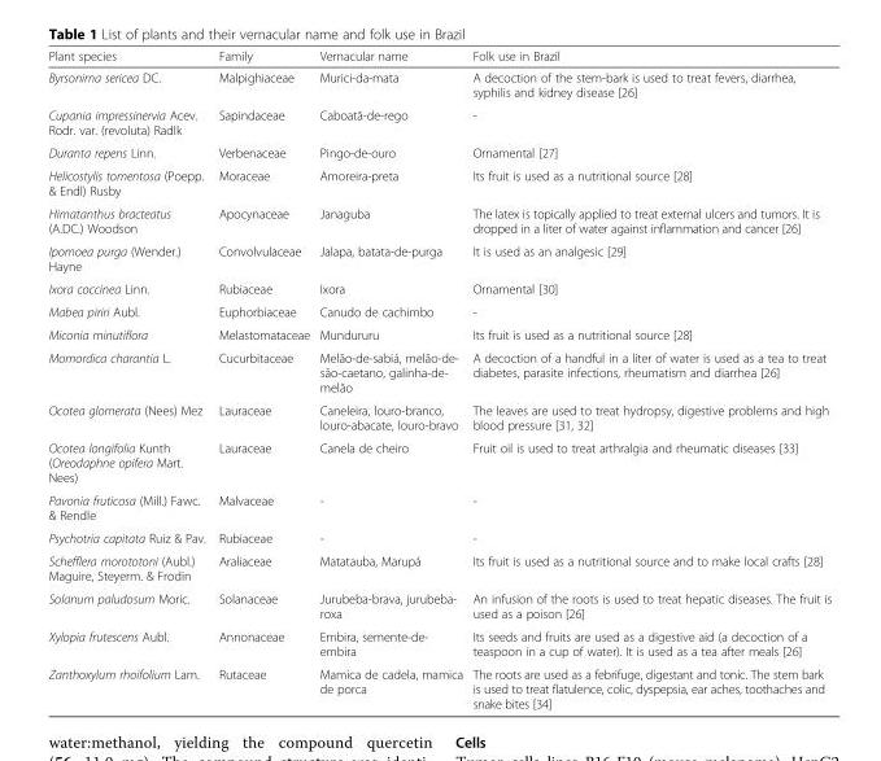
<table><thead><tr><td>Plant species</td><td>Family</td><td>Vernacular name</td><td>Folk use in Brazil</td></tr></thead><tbody><tr><td>Byrsonima sericea DC.</td><td>Malpighiaceae</td><td>Murici-da-mata</td><td>A decoction of the stem-bark is used to treat fevers, diarrhea, syphilis and kidney disease [26]</td></tr><tr><td>Cupania impressinervia Acev. Rodr. var. (revoluta) Radlk</td><td>Sapindaceae</td><td>Caboatã-de-rego</td><td>-</td></tr><tr><td>Duranta repens Linn.</td><td>Verbenaceae</td><td>Pingo-de-ouro</td><td>Ornamental [27]</td></tr><tr><td>Helicostylis tomentosa (Poepp. &amp; Endl) Rusby</td><td>Moraceae</td><td>Amoreira-preta</td><td>Its fruit is used as a nutritional source [28]</td></tr><tr><td>Himatanthus bracteatus (A.DC.) Woodson</td><td>Apocynaceae</td><td>Janaguba</td><td>The latex is topically applied to treat external ulcers and tumors. It is dropped in a liter of water against inflammation and cancer [26]</td></tr><tr><td>Ipomoea purga (Wender.) Hayne</td><td>Convolvulaceae</td><td>Jalapa, batata-de-purga</td><td>It is used as an analgesic [29]</td></tr><tr><td>Ixora coccinea Linn.</td><td>Rubiaceae</td><td>Ixora</td><td>Ornamental [30]</td></tr><tr><td>Mabea piriri Aubl.</td><td>Euphorbiaceae</td><td>Canudo de cachimbo</td><td>-</td></tr><tr><td>Miconia minutiflora</td><td>Melastomataceae</td><td>Mundururu</td><td>Its fruit is used as a nutritional source [28]</td></tr><tr><td>Momordica charantia L.</td><td>Cucurbitaceae</td><td>Melão-de-sabiá, melão-de- são-caetano, galinha-de- melão</td><td>A decoction of a handful in a liter of water is used as a tea to treat diabetes, parasite infections, rheumatism and diarrhea [26]</td></tr><tr><td>Ocotea glomerata (Nees) Mez</td><td>Lauraceae</td><td>Caneleira, louro-branco, louro-abacate, louro-bravo</td><td>The leaves are used to treat hydropsy, digestive problems and high blood pressure [31, 32]</td></tr><tr><td>Ocotea longifolia Kunth (Oreodaphne opifera Mart. Nees)</td><td>Lauraceae</td><td>Canela de cheiro</td><td>Fruit oil is used to treat arthralgia and rheumatic diseases [33]</td></tr><tr><td>Pavonia fruticosa (Mill.) Fawc. &amp; Rendle</td><td>Malvaceae</td><td>-</td><td>-</td></tr><tr><td>Psychotria capitata Ruiz &amp; Pav.</td><td>Rubiaceae</td><td>-</td><td>-</td></tr><tr><td>Schefflera morototoni (Aubl.) Maguire, Steyerm. &amp; Frodin</td><td>Araliaceae</td><td>Matatauba, Marupá</td><td>Its fruit is used as a nutritional source and to make local crafts [28]</td></tr><tr><td>Solanum paludosum Moric.</td><td>Solanaceae</td><td>Jurubeba-brava, jurubeba- roxa</td><td>An infusion of the roots is used to treat hepatic diseases. The fruit is used as a poison [26]</td></tr><tr><td>Xylopia frutescens Aubl.</td><td>Annonaceae</td><td>Embira, semente-de- embira</td><td>Its seeds and fruits are used as a digestive aid (a decoction of a teaspoon in a cup of water). It is used as a tea after meals [26]</td></tr><tr><td>Zanthoxylum rhoifolium Lam.</td><td>Rutaceae</td><td>Mamica de cadela, mamica de porca</td><td>The roots are used as a febrifuge, digestant and tonic. The stem bark is used to treat flatulence, colic, dyspepsia, ear aches, toothaches and snake bites [34]</td></tr></tbody></table>